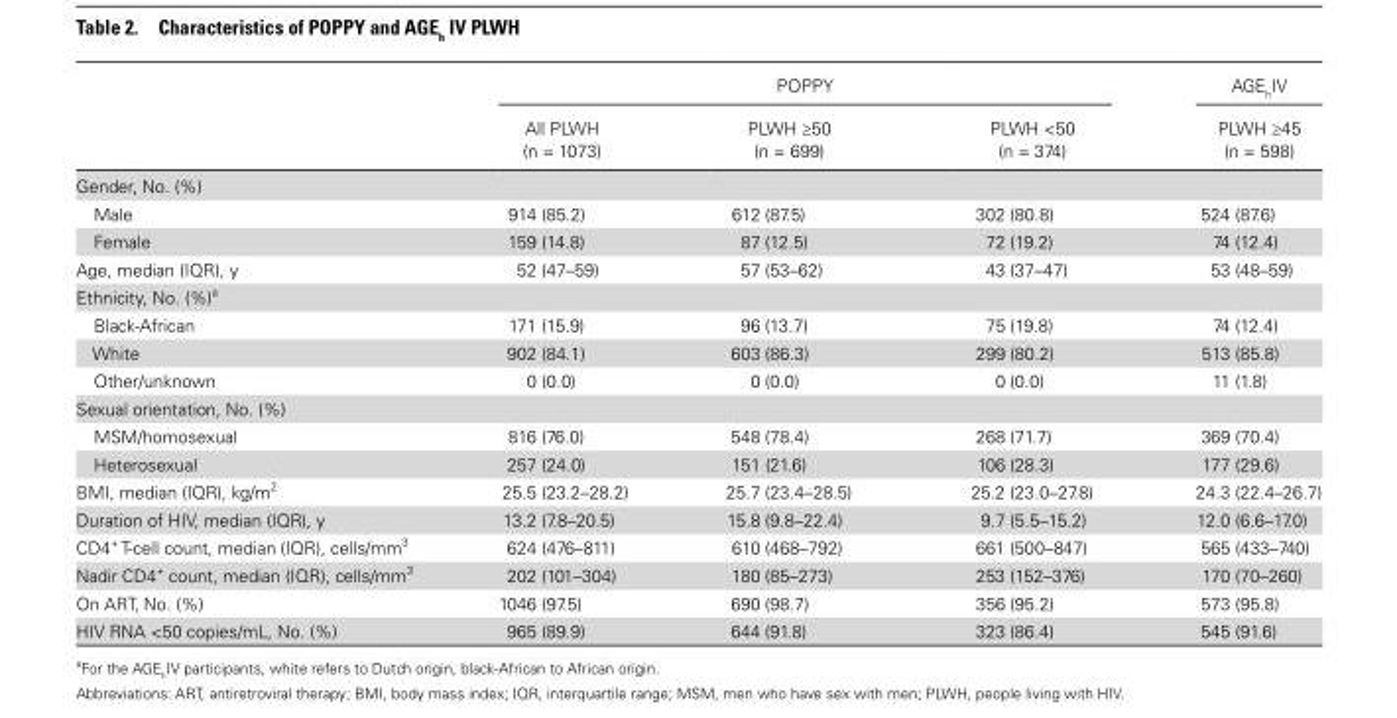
<table><thead><tr><td rowspan="2"></td><td colspan="3">POPPY</td><td rowspan="2">AGE<sub>h</sub>IV PLWH ≥45 (n = 598)</td></tr><tr><td>All PLWH (n = 1073)</td><td>PLWH ≥50 (n = 699)</td><td>PLWH &lt;50 (n = 374)</td></tr></thead><tbody><tr><td colspan="5">Gender, No. (%)</td></tr><tr><td>Male</td><td>914 (85.2)</td><td>612 (87.5)</td><td>302 (80.8)</td><td>524 (87.6)</td></tr><tr><td>Female</td><td>159 (14.8)</td><td>87 (12.5)</td><td>72 (19.2)</td><td>74 (12.4)</td></tr><tr><td>Age, median (IQR), y</td><td>52 (47–59)</td><td>57 (53–62)</td><td>43 (37–47)</td><td>53 (48–59)</td></tr><tr><td colspan="5">Ethnicity, No. (%)<sup>a</sup></td></tr><tr><td>Black-African</td><td>171 (15.9)</td><td>96 (13.7)</td><td>75 (19.8)</td><td>74 (12.4)</td></tr><tr><td>White</td><td>902 (84.1)</td><td>603 (86.3)</td><td>299 (80.2)</td><td>513 (85.8)</td></tr><tr><td>Other/unknown</td><td>0 (0.0)</td><td>0 (0.0)</td><td>0 (0.0)</td><td>11 (1.8)</td></tr><tr><td colspan="5">Sexual orientation, No. (%)</td></tr><tr><td>MSM/homosexual</td><td>816 (76.0)</td><td>548 (78.4)</td><td>268 (71.7)</td><td>369 (70.4)</td></tr><tr><td>Heterosexual</td><td>257 (24.0)</td><td>151 (21.6)</td><td>106 (28.3)</td><td>177 (29.6)</td></tr><tr><td>BMI, median (IQR), kg/m<sup>2</sup></td><td>25.5 (23.2–28.2)</td><td>25.7 (23.4–28.5)</td><td>25.2 (23.0–27.8)</td><td>24.3 (22.4–26.7)</td></tr><tr><td>Duration of HIV, median (IQR), y</td><td>13.2 (7.8–20.5)</td><td>15.8 (9.8–22.4)</td><td>9.7 (5.5–15.2)</td><td>12.0 (6.6–17.0)</td></tr><tr><td>CD4<sup>+</sup> T-cell count, median (IQR), cells/mm<sup>3</sup></td><td>624 (476–811)</td><td>610 (468–792)</td><td>661 (500–847)</td><td>565 (433–740)</td></tr><tr><td>Nadir CD4<sup>+</sup> count, median (IQR), cells/mm<sup>3</sup></td><td>202 (101–304)</td><td>180 (85–273)</td><td>253 (152–376)</td><td>170 (70–260)</td></tr><tr><td>On ART, No. (%)</td><td>1046 (97.5)</td><td>690 (98.7)</td><td>356 (95.2)</td><td>573 (95.8)</td></tr><tr><td>HIV RNA &lt;50 copies/mL, No. (%)</td><td>965 (89.9)</td><td>644 (91.8)</td><td>323 (86.4)</td><td>545 (91.6)</td></tr></tbody></table>